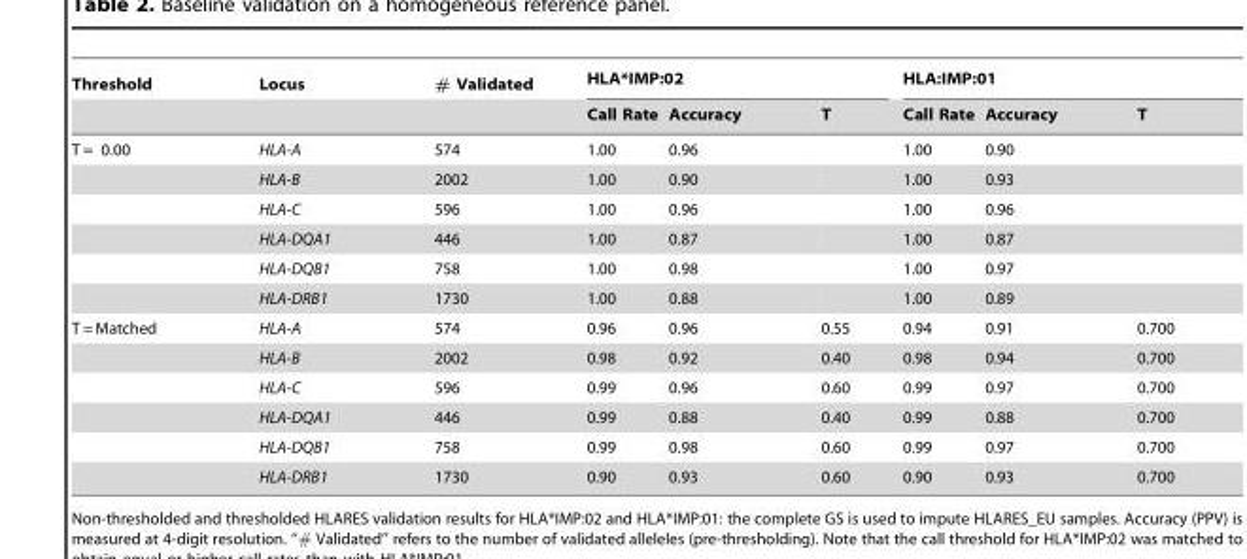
<table><thead><tr><td rowspan="2">Threshold</td><td rowspan="2">Locus</td><td rowspan="2"># Validated</td><td colspan="3">HLA*IMP:02</td><td colspan="3">HLA:IMP:01</td></tr><tr><td>Call Rate</td><td>Accuracy</td><td>T</td><td>Call Rate</td><td>Accuracy</td><td>T</td></tr></thead><tbody><tr><td rowspan="6">T = 0.00</td><td>HLA-A</td><td>574</td><td>1.00</td><td>0.96</td><td></td><td>1.00</td><td>0.90</td><td></td></tr><tr><td>HLA-B</td><td>2002</td><td>1.00</td><td>0.90</td><td></td><td>1.00</td><td>0.93</td><td></td></tr><tr><td>HLA-C</td><td>596</td><td>1.00</td><td>0.96</td><td></td><td>1.00</td><td>0.96</td><td></td></tr><tr><td>HLA-DQA1</td><td>446</td><td>1.00</td><td>0.87</td><td></td><td>1.00</td><td>0.87</td><td></td></tr><tr><td>HLA-DQB1</td><td>758</td><td>1.00</td><td>0.98</td><td></td><td>1.00</td><td>0.97</td><td></td></tr><tr><td>HLA-DRB1</td><td>1730</td><td>1.00</td><td>0.88</td><td></td><td>1.00</td><td>0.89</td><td></td></tr><tr><td rowspan="6">T = Matched</td><td>HLA-A</td><td>574</td><td>0.96</td><td>0.96</td><td>0.55</td><td>0.94</td><td>0.91</td><td>0.700</td></tr><tr><td>HLA-B</td><td>2002</td><td>0.98</td><td>0.92</td><td>0.40</td><td>0.98</td><td>0.94</td><td>0.700</td></tr><tr><td>HLA-C</td><td>596</td><td>0.99</td><td>0.96</td><td>0.60</td><td>0.99</td><td>0.97</td><td>0.700</td></tr><tr><td>HLA-DQA1</td><td>446</td><td>0.99</td><td>0.88</td><td>0.40</td><td>0.99</td><td>0.88</td><td>0.700</td></tr><tr><td>HLA-DQB1</td><td>758</td><td>0.99</td><td>0.98</td><td>0.60</td><td>0.99</td><td>0.97</td><td>0.700</td></tr><tr><td>HLA-DRB1</td><td>1730</td><td>0.90</td><td>0.93</td><td>0.60</td><td>0.90</td><td>0.93</td><td>0.700</td></tr></tbody></table>